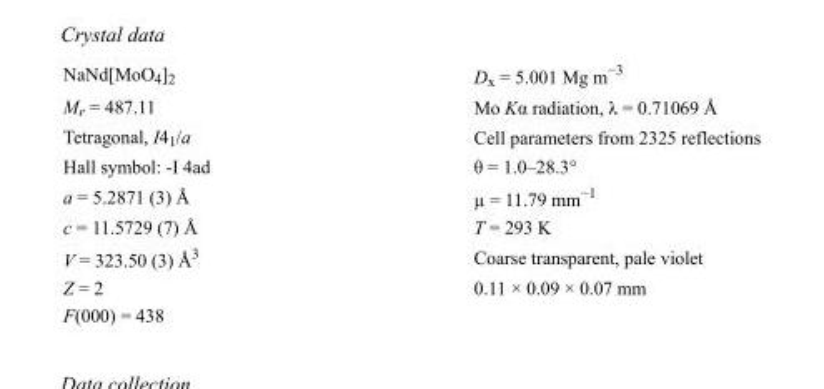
<table><tbody><tr><td>NaNd[MoO<sub>4</sub>]<sub>2</sub></td><td>D<sub>x</sub> = 5.001 Mg m<sup>−3</sup></td></tr><tr><td>M<sub>r</sub> = 487.11</td><td>Mo Kα radiation, λ = 0.71069 Å</td></tr><tr><td>Tetragonal, I4<sub>1</sub>/a</td><td>Cell parameters from 2325 reflections</td></tr><tr><td>Hall symbol: -I 4ad</td><td>θ = 1.0–28.3°</td></tr><tr><td>a = 5.2871 (3) Å</td><td>µ = 11.79 mm<sup>−1</sup></td></tr><tr><td>c = 11.5729 (7) Å</td><td>T = 293 K</td></tr><tr><td>V = 323.50 (3) Å<sup>3</sup></td><td>Coarse transparent, pale violet</td></tr><tr><td>Z = 2</td><td>0.11 × 0.09 × 0.07 mm</td></tr><tr><td>F(000) = 438</td><td></td></tr></tbody></table>